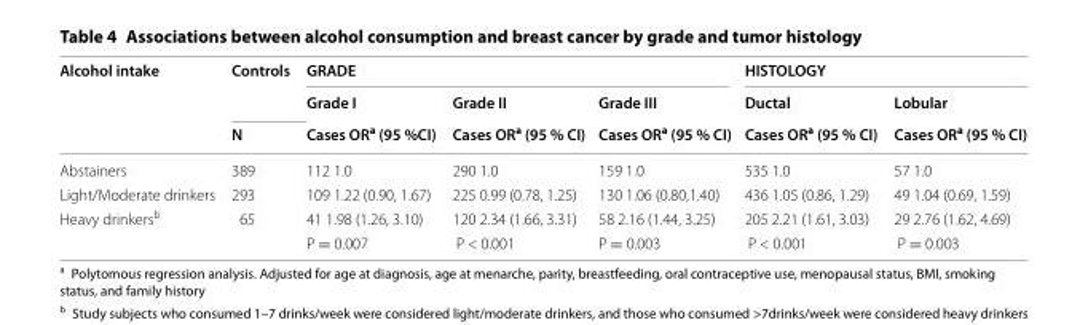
<table><thead><tr><td rowspan="3">Alcohol intake</td><td rowspan="3">Controls N</td><td colspan="3">GRADE</td><td colspan="2">HISTOLOGY</td></tr><tr><td rowspan="2">Grade I Cases OR<sup>a</sup> (95 %CI)</td><td rowspan="2">Grade II Cases OR<sup>a</sup> (95 % CI)</td><td rowspan="2">Grade III Cases OR<sup>a</sup> (95 % CI)</td><td rowspan="2">Ductal Cases OR<sup>a</sup> (95 % CI)</td><td rowspan="2">Lobular Cases OR<sup>a</sup> (95 % CI)</td></tr><tr></tr></thead><tbody><tr><td>Abstainers</td><td>389</td><td>112 1.0</td><td>290 1.0</td><td>159 1.0</td><td>535 1.0</td><td>57 1.0</td></tr><tr><td>Light/Moderate drinkers</td><td>293</td><td>109 1.22 (0.90, 1.67)</td><td>225 0.99 (0.78, 1.25)</td><td>130 1.06 (0.80,1.40)</td><td>436 1.05 (0.86, 1.29)</td><td>49 1.04 (0.69, 1.59)</td></tr><tr><td>Heavy drinkers<sup>b</sup></td><td>65</td><td>41 1.98 (1.26, 3.10)</td><td>120 2.34 (1.66, 3.31)</td><td>58 2.16 (1.44, 3.25)</td><td>205 2.21 (1.61, 3.03)</td><td>29 2.76 (1.62, 4.69)</td></tr><tr><td colspan="2"></td><td>P = 0.007</td><td>P &lt; 0.001</td><td>P = 0.003</td><td>P &lt; 0.001</td><td>P = 0.003</td></tr></tbody></table>